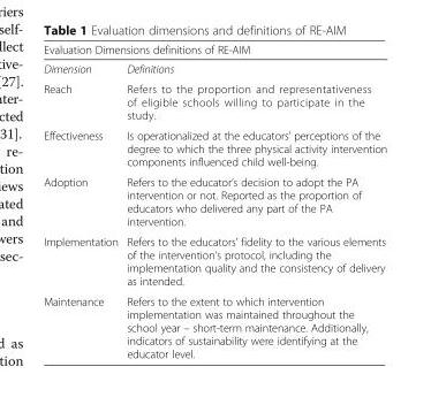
<table><thead><tr><td colspan="2">Evaluation Dimensions definitions of RE-AIM</td></tr><tr><td>Dimension</td><td>Definitions</td></tr></thead><tbody><tr><td>Reach</td><td>Refers to the proportion and representativeness of eligible schools willing to participate in the study.</td></tr><tr><td>Effectiveness</td><td>Is operationalized at the educators’ perceptions of the degree to which the three physical activity intervention components influenced child well-being.</td></tr><tr><td>Adoption</td><td>Refers to the educator’s decision to adopt the PA intervention or not. Reported as the proportion of educators who delivered any part of the PA intervention.</td></tr><tr><td>Implementation</td><td>Refers to the educators’ fidelity to the various elements of the intervention’s protocol, including the implementation quality and the consistency of delivery as intended.</td></tr><tr><td>Maintenance</td><td>Refers to the extent to which intervention implementation was maintained throughout the school year – short-term maintenance. Additionally, indicators of sustainability were identifying at the educator level.</td></tr></tbody></table>